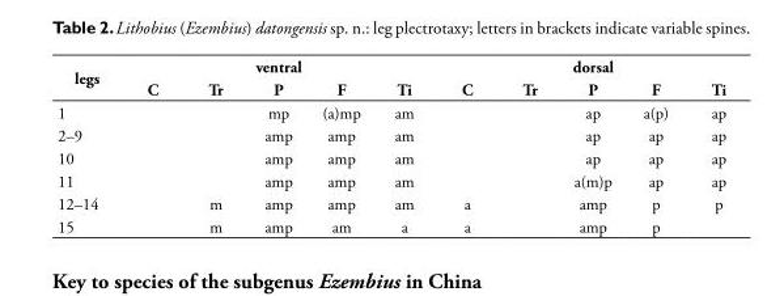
<table><thead><tr><td rowspan="2">legs</td><td colspan="5">ventral</td><td colspan="5">dorsal</td></tr><tr><td>C</td><td>Tr</td><td>P</td><td>F</td><td>Ti</td><td>C</td><td>Tr</td><td>P</td><td>F</td><td>Ti</td></tr></thead><tbody><tr><td>1</td><td></td><td></td><td>mp</td><td>(a)mp</td><td>am</td><td></td><td></td><td>ap</td><td>a(p)</td><td>ap</td></tr><tr><td>2–9</td><td></td><td></td><td>amp</td><td>amp</td><td>am</td><td></td><td></td><td>ap</td><td>ap</td><td>ap</td></tr><tr><td>10</td><td></td><td></td><td>amp</td><td>amp</td><td>am</td><td></td><td></td><td>ap</td><td>ap</td><td>ap</td></tr><tr><td>11</td><td></td><td></td><td>amp</td><td>amp</td><td>am</td><td></td><td></td><td>a(m)p</td><td>ap</td><td>ap</td></tr><tr><td>12–14</td><td></td><td>m</td><td>amp</td><td>amp</td><td>am</td><td>a</td><td></td><td>amp</td><td>p</td><td>p</td></tr><tr><td>15</td><td></td><td>m</td><td>amp</td><td>am</td><td>a</td><td>a</td><td></td><td>amp</td><td>p</td><td></td></tr></tbody></table>